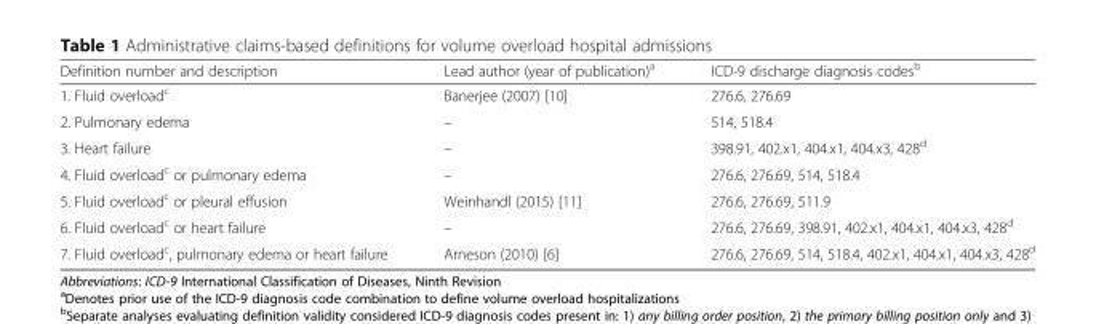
<table><thead><tr><td>Definition number and description</td><td>Lead author (year of publication)<sup>a</sup></td><td>ICD-9 discharge diagnosis codes<sup>b</sup></td></tr></thead><tbody><tr><td>1. Fluid overload<sup>c</sup></td><td>Banerjee (2007) [10]</td><td>276.6, 276.69</td></tr><tr><td>2. Pulmonary edema</td><td>–</td><td>514, 518.4</td></tr><tr><td>3. Heart failure</td><td>–</td><td>398.91, 402.x1, 404.x1, 404.x3, 428<sup>d</sup></td></tr><tr><td>4. Fluid overload<sup>c</sup> or pulmonary edema</td><td>–</td><td>276.6, 276.69, 514, 518.4</td></tr><tr><td>5. Fluid overload<sup>c</sup> or pleural effusion</td><td>Weinhandl (2015) [11]</td><td>276.6, 276.69, 511.9</td></tr><tr><td>6. Fluid overload<sup>c</sup> or heart failure</td><td>–</td><td>276.6, 276.69, 398.91, 402.x1, 404.x1, 404.x3, 428<sup>d</sup></td></tr><tr><td>7. Fluid overload<sup>c</sup>, pulmonary edema or heart failure</td><td>Arneson (2010) [6]</td><td>276.6, 276.69, 514, 518.4, 402.x1, 404.x1, 404.x3, 428<sup>d</sup></td></tr></tbody></table>